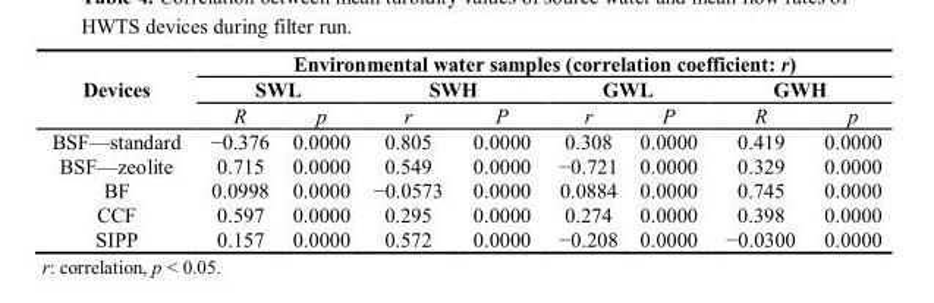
<table><thead><tr><td rowspan="3">Devices</td><td colspan="8">Environmental water samples (correlation coefficient: r)</td></tr><tr><td colspan="2">SWL</td><td colspan="2">SWH</td><td colspan="2">GWL</td><td colspan="2">GWH</td></tr><tr><td>R</td><td>p</td><td>r</td><td>P</td><td>r</td><td>P</td><td>R</td><td>p</td></tr></thead><tbody><tr><td>BSF—standard</td><td>−0.376</td><td>0.0000</td><td>0.805</td><td>0.0000</td><td>0.308</td><td>0.0000</td><td>0.419</td><td>0.0000</td></tr><tr><td>BSF—zeolite</td><td>0.715</td><td>0.0000</td><td>0.549</td><td>0.0000</td><td>−0.721</td><td>0.0000</td><td>0.329</td><td>0.0000</td></tr><tr><td>BF</td><td>0.0998</td><td>0.0000</td><td>−0.0573</td><td>0.0000</td><td>0.0884</td><td>0.0000</td><td>0.745</td><td>0.0000</td></tr><tr><td>CCF</td><td>0.597</td><td>0.0000</td><td>0.295</td><td>0.0000</td><td>0.274</td><td>0.0000</td><td>0.398</td><td>0.0000</td></tr><tr><td>SIPP</td><td>0.157</td><td>0.0000</td><td>0.572</td><td>0.0000</td><td>−0.208</td><td>0.0000</td><td>−0.0300</td><td>0.0000</td></tr></tbody></table>